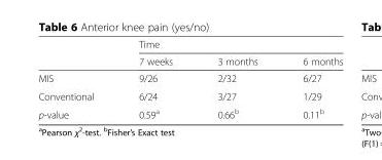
<table><thead><tr><td rowspan="2"></td><td colspan="3">Time</td></tr><tr><td>7 weeks</td><td>3 months</td><td>6 months</td></tr></thead><tbody><tr><td>MIS</td><td>9/26</td><td>2/32</td><td>6/27</td></tr><tr><td>Conventional</td><td>6/24</td><td>3/27</td><td>1/29</td></tr><tr><td>p-value</td><td>0.59<sup>a</sup></td><td>0.66<sup>b</sup></td><td>0.11<sup>b</sup></td></tr></tbody></table>